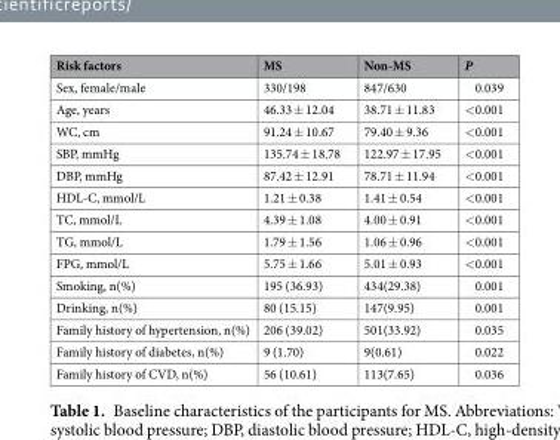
<table><thead><tr><td>Risk factors</td><td>MS</td><td>Non-MS</td><td>P</td></tr></thead><tbody><tr><td>Sex, female/male</td><td>330/198</td><td>847/630</td><td>0.039</td></tr><tr><td>Age, years</td><td>46.33 ± 12.04</td><td>38.71 ± 11.83</td><td>&lt;0.001</td></tr><tr><td>WC, cm</td><td>91.24 ± 10.67</td><td>79.40 ± 9.36</td><td>&lt;0.001</td></tr><tr><td>SBP, mmHg</td><td>135.74 ± 18.78</td><td>122.97 ± 17.95</td><td>&lt;0.001</td></tr><tr><td>DBP, mmHg</td><td>87.42 ± 12.91</td><td>78.71 ± 11.94</td><td>&lt;0.001</td></tr><tr><td>HDL-C, mmol/L</td><td>1.21 ± 0.38</td><td>1.41 ± 0.54</td><td>&lt;0.001</td></tr><tr><td>TC, mmol/L</td><td>4.39 ± 1.08</td><td>4.00 ± 0.91</td><td>&lt;0.001</td></tr><tr><td>TG, mmol/L</td><td>1.79 ± 1.56</td><td>1.06 ± 0.96</td><td>&lt;0.001</td></tr><tr><td>FPG, mmol/L</td><td>5.75 ± 1.66</td><td>5.01 ± 0.93</td><td>&lt;0.001</td></tr><tr><td>Smoking, n(%)</td><td>195 (36.93)</td><td>434(29.38)</td><td>0.001</td></tr><tr><td>Drinking, n(%)</td><td>80 (15.15)</td><td>147(9.95)</td><td>0.001</td></tr><tr><td>Family history of hypertension, n(%)</td><td>206 (39.02)</td><td>501(33.92)</td><td>0.035</td></tr><tr><td>Family history of diabetes, n(%)</td><td>9 (1.70)</td><td>9(0.61)</td><td>0.022</td></tr><tr><td>Family history of CVD, n(%)</td><td>56 (10.61)</td><td>113(7.65)</td><td>0.036</td></tr></tbody></table>